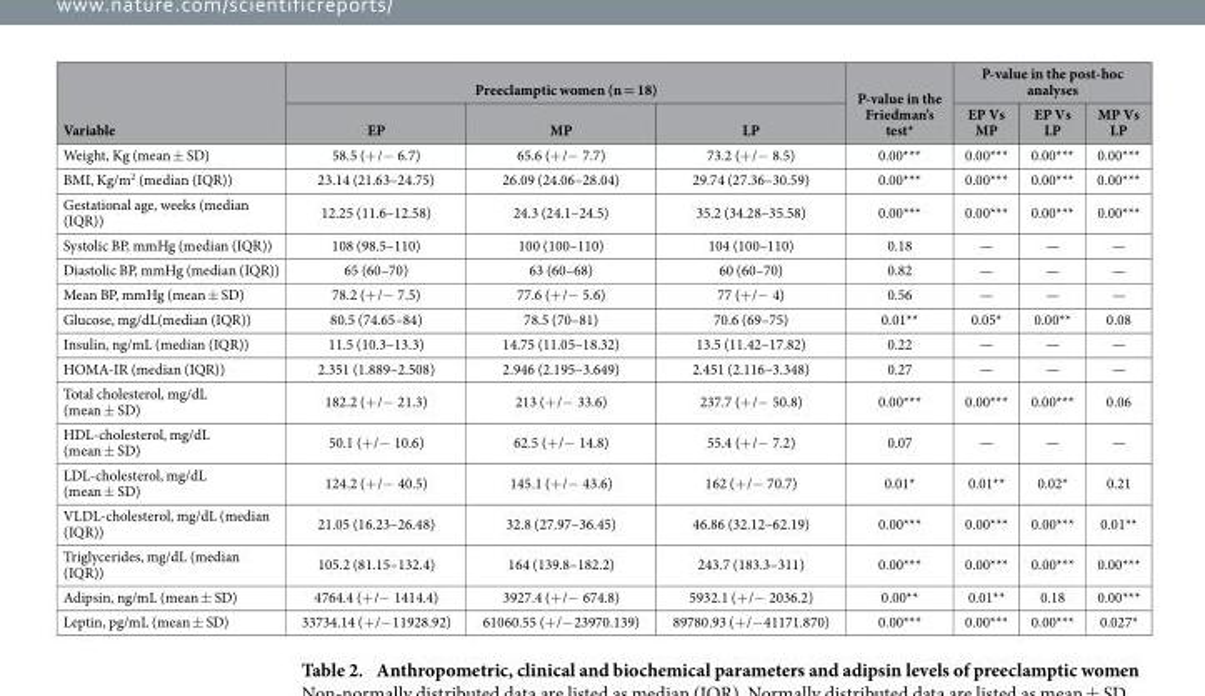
<table><thead><tr><td rowspan="2">Variable</td><td colspan="3">Preeclamptic women (n = 18)</td><td rowspan="2">P-value in the Friedman’s test*</td><td colspan="3">P-value in the post-hoc analyses</td></tr><tr><td>EP</td><td>MP</td><td>LP</td><td>EP Vs MP</td><td>EP Vs LP</td><td>MP Vs LP</td></tr></thead><tbody><tr><td>Weight, Kg (mean ± SD)</td><td>58.5 (+ /− 6.7)</td><td>65.6 (+ /− 7.7)</td><td>73.2 (+ /− 8.5)</td><td>0.00***</td><td>0.00***</td><td>0.00***</td><td>0.00***</td></tr><tr><td>BMI, Kg/m<sup>2</sup> (median (IQR))</td><td>23.14 (21.63–24.75)</td><td>26.09 (24.06–28.04)</td><td>29.74 (27.36–30.59)</td><td>0.00***</td><td>0.00***</td><td>0.00***</td><td>0.00***</td></tr><tr><td>Gestational age, weeks (median (IQR))</td><td>12.25 (11.6–12.58)</td><td>24.3 (24.1–24.5)</td><td>35.2 (34.28–35.58)</td><td>0.00***</td><td>0.00***</td><td>0.00***</td><td>0.00***</td></tr><tr><td>Systolic BP, mmHg (median (IQR))</td><td>108 (98.5–110)</td><td>100 (100–110)</td><td>104 (100–110)</td><td>0.18</td><td>—</td><td>—</td><td>—</td></tr><tr><td>Diastolic BP, mmHg (median (IQR))</td><td>65 (60–70)</td><td>63 (60–68)</td><td>60 (60–70)</td><td>0.82</td><td>—</td><td>—</td><td>—</td></tr><tr><td>Mean BP, mmHg (mean ± SD)</td><td>78.2 (+ /− 7.5)</td><td>77.6 (+ /− 5.6)</td><td>77 (+ /− 4)</td><td>0.56</td><td>—</td><td>—</td><td>—</td></tr><tr><td>Glucose, mg/dL(median (IQR))</td><td>80.5 (74.65–84)</td><td>78.5 (70–81)</td><td>70.6 (69–75)</td><td>0.01**</td><td>0.05*</td><td>0.00**</td><td>0.08</td></tr><tr><td>Insulin, ng/mL (median (IQR))</td><td>11.5 (10.3–13.3)</td><td>14.75 (11.05–18.32)</td><td>13.5 (11.42–17.82)</td><td>0.22</td><td>—</td><td>—</td><td>—</td></tr><tr><td>HOMA-IR (median (IQR))</td><td>2.351 (1.889–2.508)</td><td>2.946 (2.195–3.649)</td><td>2.451 (2.116–3.348)</td><td>0.27</td><td>—</td><td>—</td><td>—</td></tr><tr><td>Total cholesterol, mg/dL (mean ± SD)</td><td>182.2 (+ /− 21.3)</td><td>213 (+ /− 33.6)</td><td>237.7 (+ /− 50.8)</td><td>0.00***</td><td>0.00***</td><td>0.00***</td><td>0.06</td></tr><tr><td>HDL-cholesterol, mg/dL (mean ± SD)</td><td>50.1 (+ /− 10.6)</td><td>62.5 (+ /− 14.8)</td><td>55.4 (+ /− 7.2)</td><td>0.07</td><td>—</td><td>—</td><td>—</td></tr><tr><td>LDL-cholesterol, mg/dL (mean ± SD)</td><td>124.2 (+ /− 40.5)</td><td>145.1 (+ /− 43.6)</td><td>162 (+ /− 70.7)</td><td>0.01*</td><td>0.01**</td><td>0.02*</td><td>0.21</td></tr><tr><td>VLDL-cholesterol, mg/dL (median (IQR))</td><td>21.05 (16.23–26.48)</td><td>32.8 (27.97–36.45)</td><td>46.86 (32.12–62.19)</td><td>0.00***</td><td>0.00***</td><td>0.00***</td><td>0.01**</td></tr><tr><td>Triglycerides, mg/dL (median (IQR))</td><td>105.2 (81.15–132.4)</td><td>164 (139.8–182.2)</td><td>243.7 (183.3–311)</td><td>0.00***</td><td>0.00***</td><td>0.00***</td><td>0.00***</td></tr><tr><td>Adipsin, ng/mL (mean ± SD)</td><td>4764.4 (+ /− 1414.4)</td><td>3927.4 (+ /− 674.8)</td><td>5932.1 (+ /− 2036.2)</td><td>0.00**</td><td>0.01**</td><td>0.18</td><td>0.00***</td></tr><tr><td>Leptin, pg/mL (mean ± SD)</td><td>33734.14 (+ /− 11928.92)</td><td>61060.55 (+ /− 23970.139)</td><td>89780.93 (+ /− 41171.870)</td><td>0.00***</td><td>0.00***</td><td>0.00***</td><td>0.027*</td></tr></tbody></table>